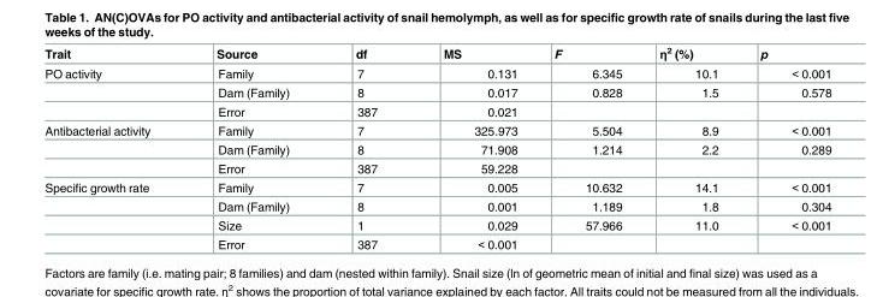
<table><thead><tr><td>Trait</td><td>Source</td><td>df</td><td>MS</td><td>F</td><td>η<sup>2</sup> (%)</td><td>p</td></tr></thead><tbody><tr><td rowspan="3">PO activity</td><td>Family</td><td>7</td><td>0.131</td><td>6.345</td><td>10.1</td><td>&lt; 0.001</td></tr><tr><td>Dam (Family)</td><td>8</td><td>0.017</td><td>0.828</td><td>1.5</td><td>0.578</td></tr><tr><td>Error</td><td>387</td><td>0.021</td><td></td><td></td><td></td></tr><tr><td rowspan="3">Antibacterial activity</td><td>Family</td><td>7</td><td>325.973</td><td>5.504</td><td>8.9</td><td>&lt; 0.001</td></tr><tr><td>Dam (Family)</td><td>8</td><td>71.908</td><td>1.214</td><td>2.2</td><td>0.289</td></tr><tr><td>Error</td><td>387</td><td>59.228</td><td></td><td></td><td></td></tr><tr><td rowspan="4">Specific growth rate</td><td>Family</td><td>7</td><td>0.005</td><td>10.632</td><td>14.1</td><td>&lt; 0.001</td></tr><tr><td>Dam (Family)</td><td>8</td><td>0.001</td><td>1.189</td><td>1.8</td><td>0.304</td></tr><tr><td>Size</td><td>1</td><td>0.029</td><td>57.966</td><td>11.0</td><td>&lt; 0.001</td></tr><tr><td>Error</td><td>387</td><td>&lt; 0.001</td><td></td><td></td><td></td></tr></tbody></table>